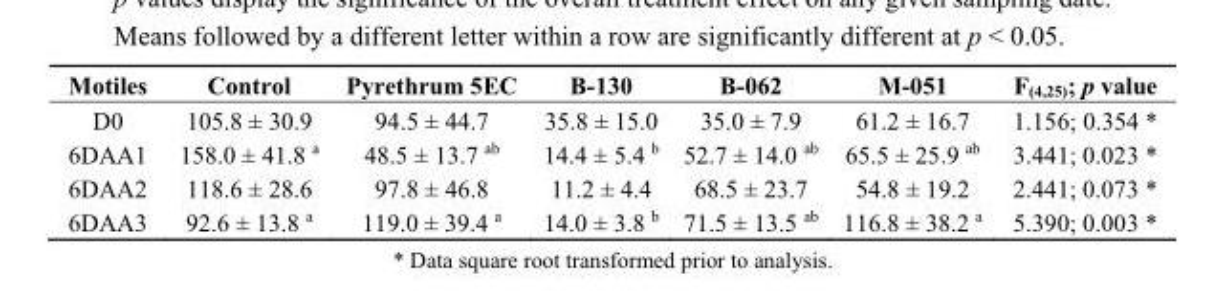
<table><thead><tr><td>Motiles</td><td>Control</td><td>Pyrethrum 5EC</td><td>B-130</td><td>B-062</td><td>M-051</td><td>F<sub>(4,25)</sub>; p value</td></tr></thead><tbody><tr><td>D0</td><td>105.8 ± 30.9</td><td>94.5 ± 44.7</td><td>35.8 ± 15.0</td><td>35.0 ± 7.9</td><td>61.2 ± 16.7</td><td>1.156; 0.354 *</td></tr><tr><td>6DAA1</td><td>158.0 ± 41.8 <sup>a</sup></td><td>48.5 ± 13.7 <sup>ab</sup></td><td>14.4 ± 5.4 <sup>b</sup></td><td>52.7 ± 14.0 <sup>ab</sup></td><td>65.5 ± 25.9 <sup>ab</sup></td><td>3.441; 0.023 *</td></tr><tr><td>6DAA2</td><td>118.6 ± 28.6</td><td>97.8 ± 46.8</td><td>11.2 ± 4.4</td><td>68.5 ± 23.7</td><td>54.8 ± 19.2</td><td>2.441; 0.073 *</td></tr><tr><td>6DAA3</td><td>92.6 ± 13.8 <sup>a</sup></td><td>119.0 ± 39.4 <sup>a</sup></td><td>14.0 ± 3.8 <sup>b</sup></td><td>71.5 ± 13.5 <sup>ab</sup></td><td>116.8 ± 38.2 <sup>a</sup></td><td>5.390; 0.003 *</td></tr></tbody></table>